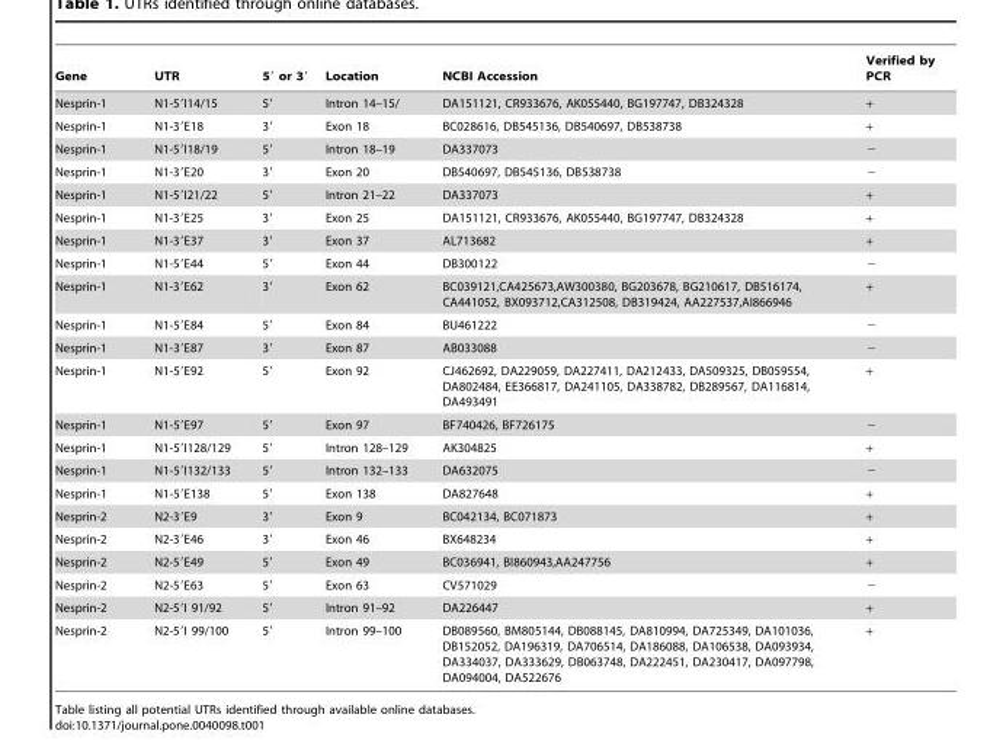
<table><thead><tr><td>Gene</td><td>UTR</td><td>5′ or 3′</td><td>Location</td><td>NCBI Accession</td><td>Verified by PCR</td></tr></thead><tbody><tr><td>Nesprin-1</td><td>N1-5′I14/15</td><td>5′</td><td>Intron 14–15/</td><td>DA151121, CR933676, AK055440, BG197747, DB324328</td><td>+</td></tr><tr><td>Nesprin-1</td><td>N1-3′E18</td><td>3′</td><td>Exon 18</td><td>BC028616, DB545136, DB540697, DB538738</td><td>+</td></tr><tr><td>Nesprin-1</td><td>N1-5′I18/19</td><td>5′</td><td>Intron 18–19</td><td>DA337073</td><td>−</td></tr><tr><td>Nesprin-1</td><td>N1-3′E20</td><td>3′</td><td>Exon 20</td><td>DB540697, DB545136, DB538738</td><td>−</td></tr><tr><td>Nesprin-1</td><td>N1-5′I21/22</td><td>5′</td><td>Intron 21–22</td><td>DA337073</td><td>+</td></tr><tr><td>Nesprin-1</td><td>N1-3′E25</td><td>3′</td><td>Exon 25</td><td>DA151121, CR933676, AK055440, BG197747, DB324328</td><td>+</td></tr><tr><td>Nesprin-1</td><td>N1-3′E37</td><td>3′</td><td>Exon 37</td><td>AL713682</td><td>+</td></tr><tr><td>Nesprin-1</td><td>N1-5′E44</td><td>5′</td><td>Exon 44</td><td>DB300122</td><td>−</td></tr><tr><td>Nesprin-1</td><td>N1-3′E62</td><td>3′</td><td>Exon 62</td><td>BC039121,CA425673,AW300380, BG203678, BG210617, DB516174, CA441052, BX093712,CA312508, DB319424, AA227537,AI866946</td><td>+</td></tr><tr><td>Nesprin-1</td><td>N1-5′E84</td><td>5′</td><td>Exon 84</td><td>BU461222</td><td>−</td></tr><tr><td>Nesprin-1</td><td>N1-3′E87</td><td>3′</td><td>Exon 87</td><td>AB033088</td><td>−</td></tr><tr><td>Nesprin-1</td><td>N1-5′E92</td><td>5′</td><td>Exon 92</td><td>CJ462692, DA229059, DA227411, DA212433, DA509325, DB059554, DA802484, EE366817, DA241105, DA338782, DB289567, DA116814, DA493491</td><td>+</td></tr><tr><td>Nesprin-1</td><td>N1-5′E97</td><td>5′</td><td>Exon 97</td><td>BF740426, BF726175</td><td>−</td></tr><tr><td>Nesprin-1</td><td>N1-5′I128/129</td><td>5′</td><td>Intron 128–129</td><td>AK304825</td><td>+</td></tr><tr><td>Nesprin-1</td><td>N1-5′I132/133</td><td>5′</td><td>Intron 132–133</td><td>DA632075</td><td>−</td></tr><tr><td>Nesprin-1</td><td>N1-5′E138</td><td>5′</td><td>Exon 138</td><td>DA827648</td><td>+</td></tr><tr><td>Nesprin-2</td><td>N2-3′E9</td><td>3′</td><td>Exon 9</td><td>BC042134, BC071873</td><td>+</td></tr><tr><td>Nesprin-2</td><td>N2-3′E46</td><td>3′</td><td>Exon 46</td><td>BX648234</td><td>+</td></tr><tr><td>Nesprin-2</td><td>N2-5′E49</td><td>5′</td><td>Exon 49</td><td>BC036941, BI860943,AA247756</td><td>+</td></tr><tr><td>Nesprin-2</td><td>N2-5′E63</td><td>5′</td><td>Exon 63</td><td>CV571029</td><td>−</td></tr><tr><td>Nesprin-2</td><td>N2-5′I 91/92</td><td>5′</td><td>Intron 91–92</td><td>DA226447</td><td>+</td></tr><tr><td>Nesprin-2</td><td>N2-5′I 99/100</td><td>5′</td><td>Intron 99–100</td><td>DB089560, BM805144, DB088145, DA810994, DA725349, DA101036, DB152052, DA196319, DA706514, DA186088, DA106538, DA093934, DA334037, DA333629, DB063748, DA222451, DA230417, DA097798, DA094004, DA522676</td><td>+</td></tr></tbody></table>